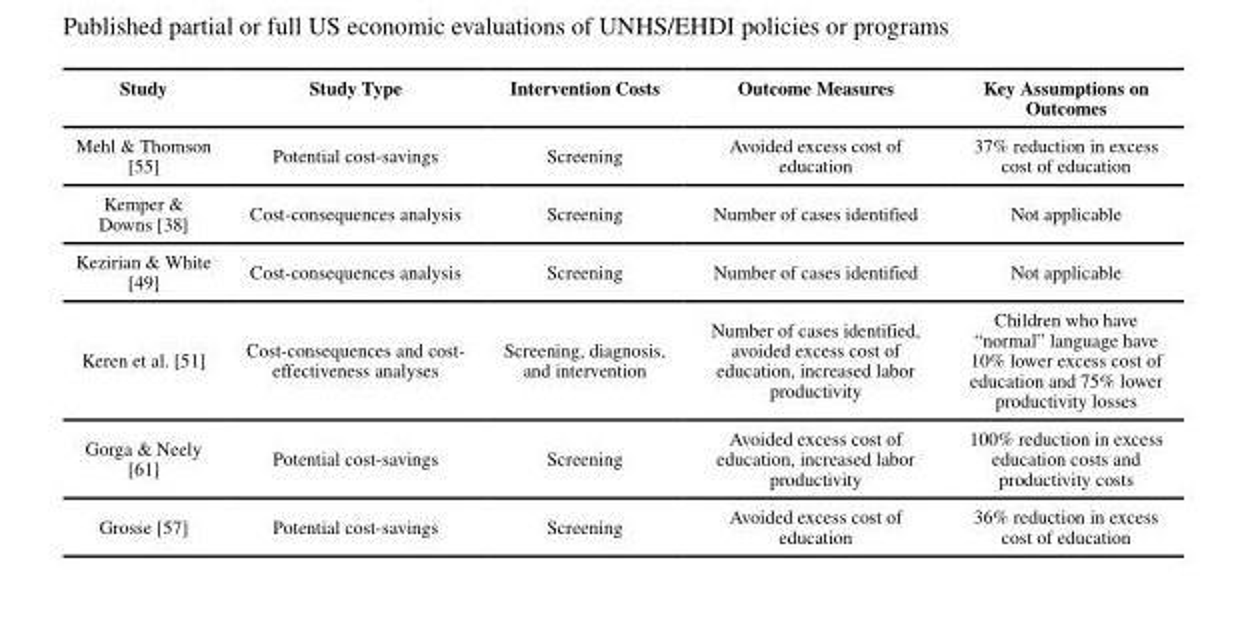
<table><thead><tr><td>Study</td><td>Study Type</td><td>Intervention Costs</td><td>Outcome Measures</td><td>Key Assumptions on Outcomes</td></tr></thead><tbody><tr><td>Mehl &amp; Thomson [55]</td><td>Potential cost-savings</td><td>Screening</td><td>Avoided excess cost of education</td><td>37% reduction in excess cost of education</td></tr><tr><td>Kemper &amp; Downs [38]</td><td>Cost-consequences analysis</td><td>Screening</td><td>Number of cases identified</td><td>Not applicable</td></tr><tr><td>Kezirian &amp; White [49]</td><td>Cost-consequences analysis</td><td>Screening</td><td>Number of cases identified</td><td>Not applicable</td></tr><tr><td>Keren et al. [51]</td><td>Cost-consequences and cost- effectiveness analyses</td><td>Screening, diagnosis, and intervention</td><td>Number of cases identified, avoided excess cost of education, increased labor productivity</td><td>Children who have “normal” language have 10% lower excess cost of education and 75% lower productivity losses</td></tr><tr><td>Gorga &amp; Neely [61]</td><td>Potential cost-savings</td><td>Screening</td><td>Avoided excess cost of education, increased labor productivity</td><td>100% reduction in excess education costs and productivity costs</td></tr><tr><td>Grosse [57]</td><td>Potential cost-savings</td><td>Screening</td><td>Avoided excess cost of education</td><td>36% reduction in excess cost of education</td></tr></tbody></table>